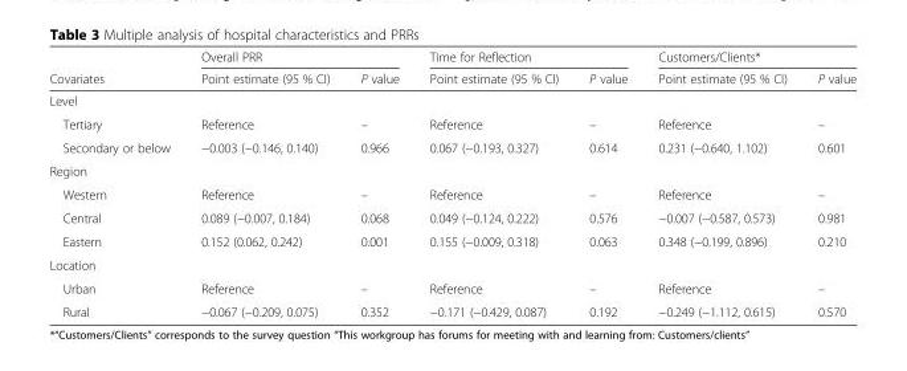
<table><thead><tr><td rowspan="2">Covariates</td><td colspan="2">Overall PRR</td><td colspan="2">Time for Reflection</td><td colspan="2">Customers/Clients*</td></tr><tr><td>Point estimate (95 % CI)</td><td>P value</td><td>Point estimate (95 % CI)</td><td>P value</td><td>Point estimate (95 % CI)</td><td>P value</td></tr></thead><tbody><tr><td colspan="7">Level</td></tr><tr><td>Tertiary</td><td>Reference</td><td>–</td><td>Reference</td><td>–</td><td>Reference</td><td>–</td></tr><tr><td>Secondary or below</td><td>−0.003 (−0.146, 0.140)</td><td>0.966</td><td>0.067 (−0.193, 0.327)</td><td>0.614</td><td>0.231 (−0.640, 1.102)</td><td>0.601</td></tr><tr><td colspan="7">Region</td></tr><tr><td>Western</td><td>Reference</td><td>–</td><td>Reference</td><td>–</td><td>Reference</td><td>–</td></tr><tr><td>Central</td><td>0.089 (−0.007, 0.184)</td><td>0.068</td><td>0.049 (−0.124, 0.222)</td><td>0.576</td><td>−0.007 (−0.587, 0.573)</td><td>0.981</td></tr><tr><td>Eastern</td><td>0.152 (0.062, 0.242)</td><td>0.001</td><td>0.155 (−0.009, 0.318)</td><td>0.063</td><td>0.348 (−0.199, 0.896)</td><td>0.210</td></tr><tr><td colspan="7">Location</td></tr><tr><td>Urban</td><td>Reference</td><td>–</td><td>Reference</td><td>–</td><td>Reference</td><td>–</td></tr><tr><td>Rural</td><td>−0.067 (−0.209, 0.075)</td><td>0.352</td><td>−0.171 (−0.429, 0.087)</td><td>0.192</td><td>−0.249 (−1.112, 0.615)</td><td>0.570</td></tr></tbody></table>